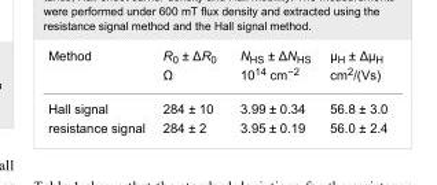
<table><tbody><tr><td rowspan="2">Method</td><td>R<sub>0</sub> ± ΔR<sub>0</sub></td><td>N<sub>HS</sub> ± ΔN<sub>HS</sub></td><td>μ<sub>H</sub> ± Δμ<sub>H</sub></td></tr><tr><td>Ω</td><td>10<sup>14</sup> cm<sup>−2</sup></td><td>cm<sup>2</sup>/(Vs)</td></tr><tr><td>Hall signal</td><td>284 ± 10</td><td>3.99 ± 0.34</td><td>56.8 ± 3.0</td></tr><tr><td>resistance signal</td><td>284 ± 2</td><td>3.95 ± 0.19</td><td>56.0 ± 2.4</td></tr></tbody></table>